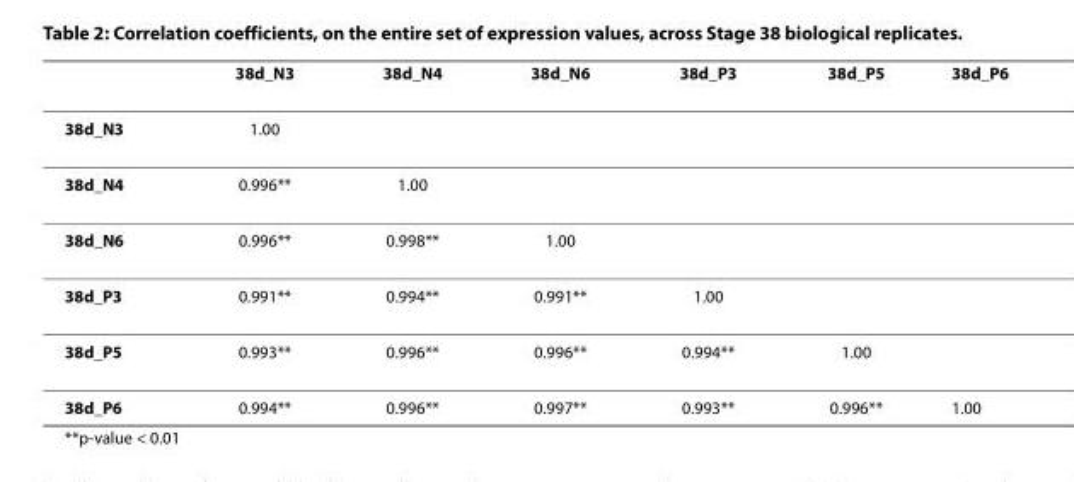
<table><thead><tr><td></td><td>38d_N3</td><td>38d_N4</td><td>38d_N6</td><td>38d_P3</td><td>38d_P5</td><td>38d_P6</td></tr></thead><tbody><tr><td>38d_N3</td><td>1.00</td><td></td><td></td><td></td><td></td><td></td></tr><tr><td>38d_N4</td><td>0.996**</td><td>1.00</td><td></td><td></td><td></td><td></td></tr><tr><td>38d_N6</td><td>0.996**</td><td>0.998**</td><td>1.00</td><td></td><td></td><td></td></tr><tr><td>38d_P3</td><td>0.991**</td><td>0.994**</td><td>0.991**</td><td>1.00</td><td></td><td></td></tr><tr><td>38d_P5</td><td>0.993**</td><td>0.996**</td><td>0.996**</td><td>0.994**</td><td>1.00</td><td></td></tr><tr><td>38d_P6</td><td>0.994**</td><td>0.996**</td><td>0.997**</td><td>0.993**</td><td>0.996**</td><td>1.00</td></tr></tbody></table>